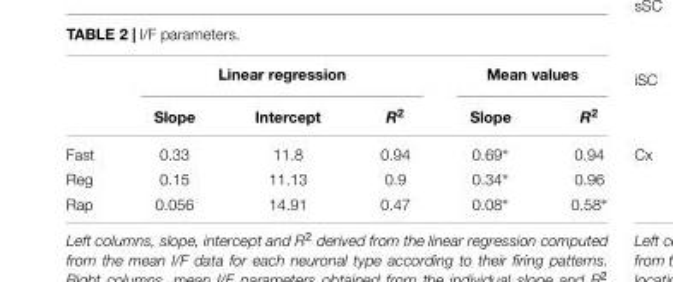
<table><thead><tr><td rowspan="2"></td><td colspan="3">Linear regression</td><td colspan="2">Mean values</td></tr><tr><td>Slope</td><td>Intercept</td><td>R<sup>2</sup></td><td>Slope</td><td>R<sup>2</sup></td></tr></thead><tbody><tr><td>Fast</td><td>0.33</td><td>11.8</td><td>0.94</td><td>0.69∗</td><td>0.94</td></tr><tr><td>Reg</td><td>0.15</td><td>11.13</td><td>0.9</td><td>0.34∗</td><td>0.96</td></tr><tr><td>Rap</td><td>0.056</td><td>14.91</td><td>0.47</td><td>0.08∗</td><td>0.58∗</td></tr></tbody></table>